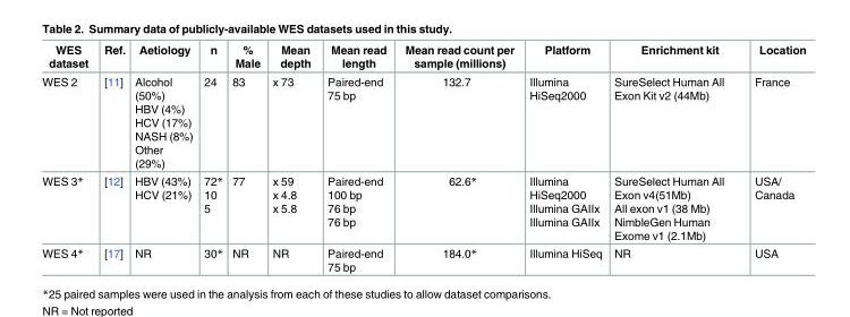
<table><thead><tr><td>WES dataset</td><td>Ref.</td><td>Aetiology</td><td>n</td><td>% Male</td><td>Mean depth</td><td>Mean read length</td><td>Mean read count per sample (millions)</td><td>Platform</td><td>Enrichment kit</td><td>Location</td></tr></thead><tbody><tr><td>WES 2</td><td>[11]</td><td>Alcohol (50%) HBV (4%) HCV (17%) NASH (8%) Other (29%)</td><td>24</td><td>83</td><td>x 73</td><td>Paired-end 75 bp</td><td>132.7</td><td>Illumina HiSeq2000</td><td>SureSelect Human All Exon Kit v2 (44Mb)</td><td>France</td></tr><tr><td>WES 3*</td><td>[12]</td><td>HBV (43%) HCV (21%)</td><td>72* 10 5</td><td>77</td><td>x 59 x 4.8 x 5.8</td><td>Paired-end 100 bp 76 bp 76 bp</td><td>62.6*</td><td>Illumina HiSeq2000 Illumina GAIIx Illumina GAIIx</td><td>SureSelect Human All Exon v4(51Mb) All exon v1 (38 Mb) NimbleGen Human Exome v1 (2.1Mb)</td><td>USA/ Canada</td></tr><tr><td>WES 4*</td><td>[17]</td><td>NR</td><td>30*</td><td>NR</td><td>NR</td><td>Paired-end 75 bp</td><td>184.0*</td><td>Illumina HiSeq</td><td>NR</td><td>USA</td></tr></tbody></table>